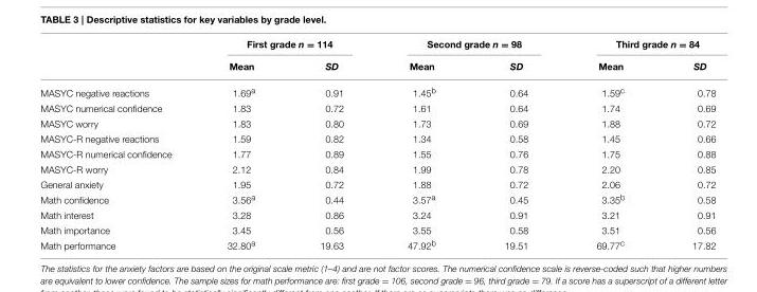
<table><thead><tr><td rowspan="2"></td><td colspan="2">First grade n = 114</td><td colspan="2">Second grade n = 98</td><td colspan="2">Third grade n = 84</td></tr><tr><td>Mean</td><td>SD</td><td>Mean</td><td>SD</td><td>Mean</td><td>SD</td></tr></thead><tbody><tr><td>MASYC negative reactions</td><td>1.69<sup>a</sup></td><td>0.91</td><td>1.45<sup>b</sup></td><td>0.64</td><td>1.59<sup>c</sup></td><td>0.78</td></tr><tr><td>MASYC numerical confidence</td><td>1.83</td><td>0.72</td><td>1.61</td><td>0.64</td><td>1.74</td><td>0.69</td></tr><tr><td>MASYC worry</td><td>1.83</td><td>0.80</td><td>1.73</td><td>0.69</td><td>1.88</td><td>0.72</td></tr><tr><td>MASYC-R negative reactions</td><td>1.59</td><td>0.82</td><td>1.34</td><td>0.58</td><td>1.45</td><td>0.66</td></tr><tr><td>MASYC-R numerical confidence</td><td>1.77</td><td>0.89</td><td>1.55</td><td>0.76</td><td>1.75</td><td>0.88</td></tr><tr><td>MASYC-R worry</td><td>2.12</td><td>0.84</td><td>1.99</td><td>0.78</td><td>2.20</td><td>0.85</td></tr><tr><td>General anxiety</td><td>1.95</td><td>0.72</td><td>1.88</td><td>0.72</td><td>2.06</td><td>0.72</td></tr><tr><td>Math confidence</td><td>3.56<sup>a</sup></td><td>0.44</td><td>3.57<sup>a</sup></td><td>0.45</td><td>3.35<sup>b</sup></td><td>0.58</td></tr><tr><td>Math interest</td><td>3.28</td><td>0.86</td><td>3.24</td><td>0.91</td><td>3.21</td><td>0.91</td></tr><tr><td>Math importance</td><td>3.45</td><td>0.56</td><td>3.55</td><td>0.58</td><td>3.51</td><td>0.56</td></tr><tr><td>Math performance</td><td>32.80<sup>a</sup></td><td>19.63</td><td>47.92<sup>b</sup></td><td>19.51</td><td>69.77<sup>c</sup></td><td>17.82</td></tr></tbody></table>